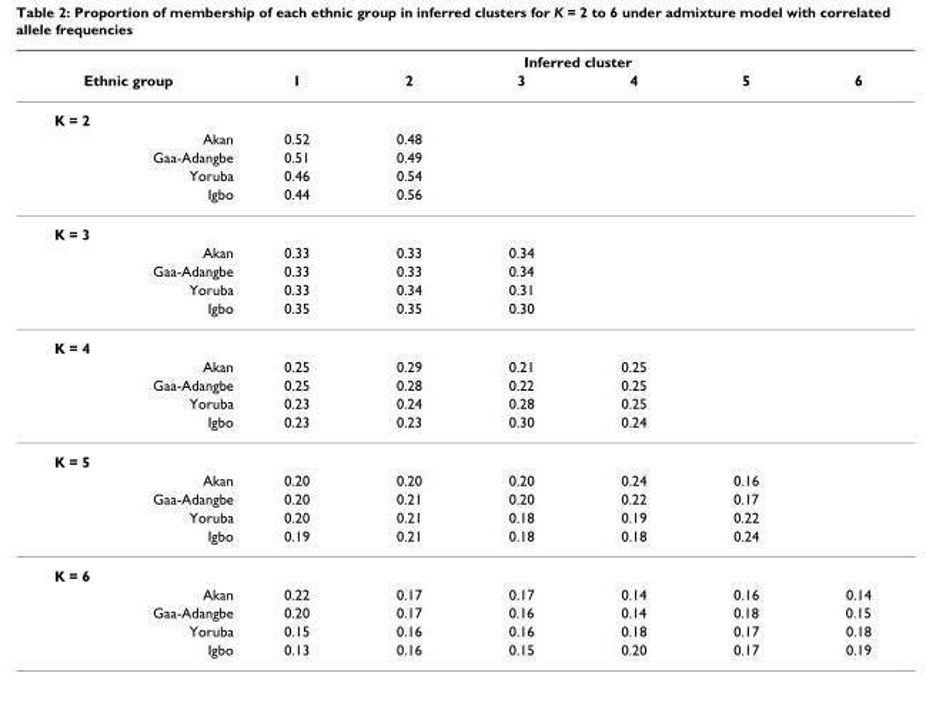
<table><thead><tr><td></td><td></td><td colspan="6">Inferred cluster</td></tr><tr><td colspan="2">Ethnic group</td><td>1</td><td>2</td><td>3</td><td>4</td><td>5</td><td>6</td></tr></thead><tbody><tr><td colspan="8">K = 2</td></tr><tr><td></td><td>Akan</td><td>0.52</td><td>0.48</td><td></td><td></td><td></td><td></td></tr><tr><td></td><td>Gaa-Adangbe</td><td>0.51</td><td>0.49</td><td></td><td></td><td></td><td></td></tr><tr><td></td><td>Yoruba</td><td>0.46</td><td>0.54</td><td></td><td></td><td></td><td></td></tr><tr><td></td><td>Igbo</td><td>0.44</td><td>0.56</td><td></td><td></td><td></td><td></td></tr><tr><td colspan="8">K = 3</td></tr><tr><td></td><td>Akan</td><td>0.33</td><td>0.33</td><td>0.34</td><td></td><td></td><td></td></tr><tr><td></td><td>Gaa-Adangbe</td><td>0.33</td><td>0.33</td><td>0.34</td><td></td><td></td><td></td></tr><tr><td></td><td>Yoruba</td><td>0.33</td><td>0.34</td><td>0.31</td><td></td><td></td><td></td></tr><tr><td></td><td>Igbo</td><td>0.35</td><td>0.35</td><td>0.30</td><td></td><td></td><td></td></tr><tr><td colspan="8">K = 4</td></tr><tr><td></td><td>Akan</td><td>0.25</td><td>0.29</td><td>0.21</td><td>0.25</td><td></td><td></td></tr><tr><td></td><td>Gaa-Adangbe</td><td>0.25</td><td>0.28</td><td>0.22</td><td>0.25</td><td></td><td></td></tr><tr><td></td><td>Yoruba</td><td>0.23</td><td>0.24</td><td>0.28</td><td>0.25</td><td></td><td></td></tr><tr><td></td><td>Igbo</td><td>0.23</td><td>0.23</td><td>0.30</td><td>0.24</td><td></td><td></td></tr><tr><td colspan="8">K = 5</td></tr><tr><td></td><td>Akan</td><td>0.20</td><td>0.20</td><td>0.20</td><td>0.24</td><td>0.16</td><td></td></tr><tr><td></td><td>Gaa-Adangbe</td><td>0.20</td><td>0.21</td><td>0.20</td><td>0.22</td><td>0.17</td><td></td></tr><tr><td></td><td>Yoruba</td><td>0.20</td><td>0.21</td><td>0.18</td><td>0.19</td><td>0.22</td><td></td></tr><tr><td></td><td>Igbo</td><td>0.19</td><td>0.21</td><td>0.18</td><td>0.18</td><td>0.24</td><td></td></tr><tr><td colspan="8">K = 6</td></tr><tr><td></td><td>Akan</td><td>0.22</td><td>0.17</td><td>0.17</td><td>0.14</td><td>0.16</td><td>0.14</td></tr><tr><td></td><td>Gaa-Adangbe</td><td>0.20</td><td>0.17</td><td>0.16</td><td>0.14</td><td>0.18</td><td>0.15</td></tr><tr><td></td><td>Yoruba</td><td>0.15</td><td>0.16</td><td>0.16</td><td>0.18</td><td>0.17</td><td>0.18</td></tr><tr><td></td><td>Igbo</td><td>0.13</td><td>0.16</td><td>0.15</td><td>0.20</td><td>0.17</td><td>0.19</td></tr></tbody></table>